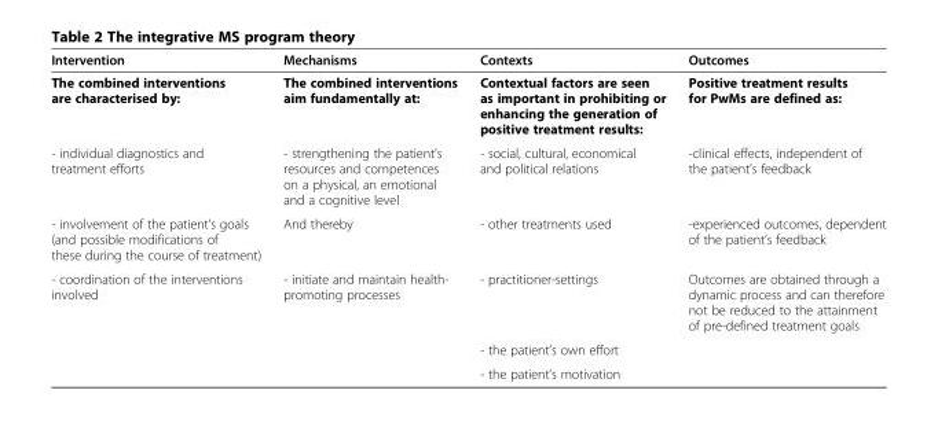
<table><thead><tr><td>Intervention</td><td>Mechanisms</td><td>Contexts</td><td>Outcomes</td></tr></thead><tbody><tr><td>The combined interventions are characterised by:</td><td>The combined interventions aim fundamentally at:</td><td>Contextual factors are seen as important in prohibiting or enhancing the generation of positive treatment results:</td><td>Positive treatment results for PwMs are defined as:</td></tr><tr><td>- individual diagnostics and treatment efforts</td><td>- strengthening the patient’s resources and competences on a physical, an emotional and a cognitive level</td><td>- social, cultural, economical and political relations</td><td>-clinical effects, independent of the patient’s feedback</td></tr><tr><td>- involvement of the patient’s goals (and possible modifications of these during the course of treatment)</td><td>And thereby</td><td>- other treatments used</td><td>-experienced outcomes, dependent of the patient’s feedback</td></tr><tr><td rowspan="3">- coordination of the interventions involved</td><td>- initiate and maintain health- promoting processes</td><td>- practitioner-settings</td><td>Outcomes are obtained through a dynamic process and can therefore not be reduced to the attainment of pre-defined treatment goals</td></tr><tr><td></td><td>- the patient’s own effort</td><td></td></tr><tr><td></td><td>- the patient’s motivation</td><td></td></tr></tbody></table>